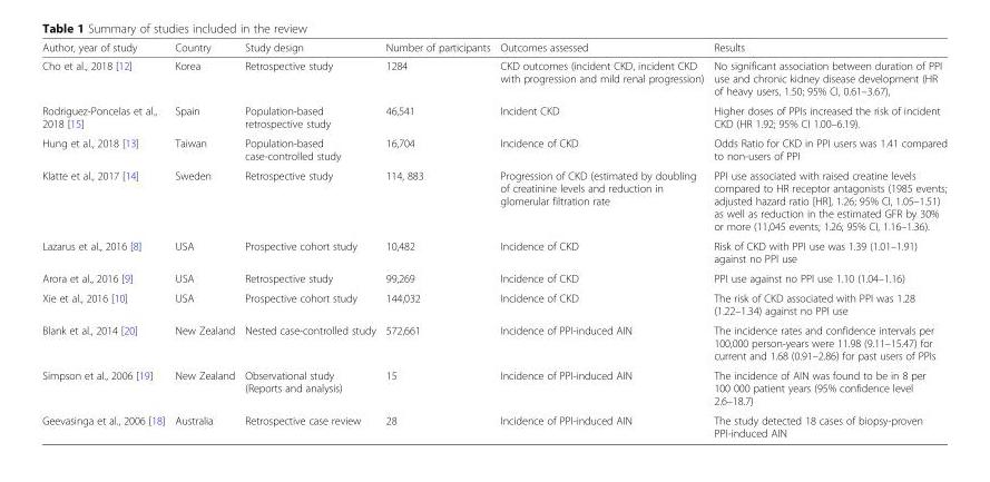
<table><thead><tr><td>Author, year of study</td><td>Country</td><td>Study design</td><td>Number of participants</td><td>Outcomes assessed</td><td>Results</td></tr></thead><tbody><tr><td>Cho et al., 2018 [12]</td><td>Korea</td><td>Retrospective study</td><td>1284</td><td>CKD outcomes (incident CKD, incident CKD with progression and mild renal progression)</td><td>No significant association between duration of PPI use and chronic kidney disease development (HR of heavy users, 1.50; 95% CI, 0.61–3.67),</td></tr><tr><td>Rodriguez-Poncelas et al., 2018 [15]</td><td>Spain</td><td>Population-based retrospective study</td><td>46,541</td><td>Incident CKD</td><td>Higher doses of PPIs increased the risk of incident CKD (HR 1.92; 95% CI 1.00–6.19).</td></tr><tr><td>Hung et al., 2018 [13]</td><td>Taiwan</td><td>Population-based case-controlled study</td><td>16,704</td><td>Incidence of CKD</td><td>Odds Ratio for CKD in PPI users was 1.41 compared to non-users of PPI</td></tr><tr><td>Klatte et al., 2017 [14]</td><td>Sweden</td><td>Retrospective study</td><td>114, 883</td><td>Progression of CKD (estimated by doubling of creatinine levels and reduction in glomerular filtration rate</td><td>PPI use associated with raised creatine levels compared to HR receptor antagonists (1985 events; adjusted hazard ratio [HR], 1.26; 95% CI, 1.05–1.51) as well as reduction in the estimated GFR by 30% or more (11,045 events; 1.26; 95% CI, 1.16–1.36).</td></tr><tr><td>Lazarus et al., 2016 [8]</td><td>USA</td><td>Prospective cohort study</td><td>10,482</td><td>Incidence of CKD</td><td>Risk of CKD with PPI use was 1.39 (1.01–1.91) against no PPI use</td></tr><tr><td>Arora et al., 2016 [9]</td><td>USA</td><td>Retrospective study</td><td>99,269</td><td>Incidence of CKD</td><td>PPI use against no PPI use 1.10 (1.04–1.16)</td></tr><tr><td>Xie et al., 2016 [10]</td><td>USA</td><td>Prospective cohort study</td><td>144,032</td><td>Incidence of CKD</td><td>The risk of CKD associated with PPI was 1.28 (1.22–1.34) against no PPI use</td></tr><tr><td>Blank et al., 2014 [20]</td><td>New Zealand</td><td>Nested case-controlled study</td><td>572,661</td><td>Incidence of PPI-induced AIN</td><td>The incidence rates and confidence intervals per 100,000 person-years were 11.98 (9.11–15.47) for current and 1.68 (0.91–2.86) for past users of PPIs</td></tr><tr><td>Simpson et al., 2006 [19]</td><td>New Zealand</td><td>Observational study (Reports and analysis)</td><td>15</td><td>Incidence of PPI-induced AIN</td><td>The incidence of AIN was found to be in 8 per 100 000 patient years (95% confidence level 2.6–18.7)</td></tr><tr><td>Geevasinga et al., 2006 [18]</td><td>Australia</td><td>Retrospective case review</td><td>28</td><td>Incidence of PPI-induced AIN</td><td>The study detected 18 cases of biopsy-proven PPI-induced AIN</td></tr></tbody></table>